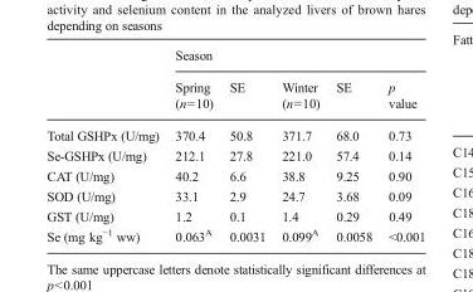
<table><thead><tr><td rowspan="2"></td><td colspan="5">Season</td></tr><tr><td>Spring (n=10)</td><td>SE</td><td>Winter (n=10)</td><td>SE</td><td>p value</td></tr></thead><tbody><tr><td>Total GSHPx (U/mg)</td><td>370.4</td><td>50.8</td><td>371.7</td><td>68.0</td><td>0.73</td></tr><tr><td>Se-GSHPx (U/mg)</td><td>212.1</td><td>27.8</td><td>221.0</td><td>57.4</td><td>0.14</td></tr><tr><td>CAT (U/mg)</td><td>40.2</td><td>6.6</td><td>38.8</td><td>9.25</td><td>0.90</td></tr><tr><td>SOD (U/mg)</td><td>33.1</td><td>2.9</td><td>24.7</td><td>3.68</td><td>0.09</td></tr><tr><td>GST (U/mg)</td><td>1.2</td><td>0.1</td><td>1.4</td><td>0.29</td><td>0.49</td></tr><tr><td>Se (mg kg<sup>−1</sup> ww)</td><td>0.063<sup>A</sup></td><td>0.0031</td><td>0.099<sup>A</sup></td><td>0.0058</td><td>&lt;0.001</td></tr></tbody></table>